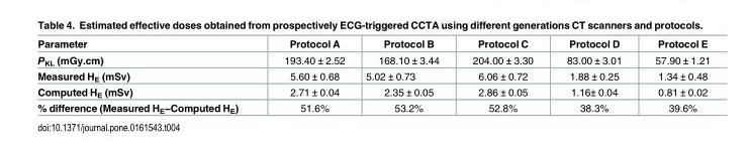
<table><thead><tr><td>Parameter</td><td>Protocol A</td><td>Protocol B</td><td>Protocol C</td><td>Protocol D</td><td>Protocol E</td></tr></thead><tbody><tr><td>P<sub>KL</sub> (mGy.cm)</td><td>193.40 ± 2.52</td><td>168.10 ± 3.44</td><td>204.00 ± 3.30</td><td>83.00 ± 3.01</td><td>57.90 ± 1.21</td></tr><tr><td>Measured H<sub>E</sub> (mSv)</td><td>5.60 ± 0.68</td><td>5.02 ± 0.73</td><td>6.06 ± 0.72</td><td>1.88 ± 0.25</td><td>1.34 ± 0.48</td></tr><tr><td>Computed H<sub>E</sub> (mSv)</td><td>2.71 ± 0.04</td><td>2.35 ± 0.05</td><td>2.86 ± 0.05</td><td>1.16± 0.04</td><td>0.81 ± 0.02</td></tr><tr><td>% difference (Measured H<sub>E</sub>−Computed H<sub>E</sub>)</td><td>51.6%</td><td>53.2%</td><td>52.8%</td><td>38.3%</td><td>39.6%</td></tr></tbody></table>